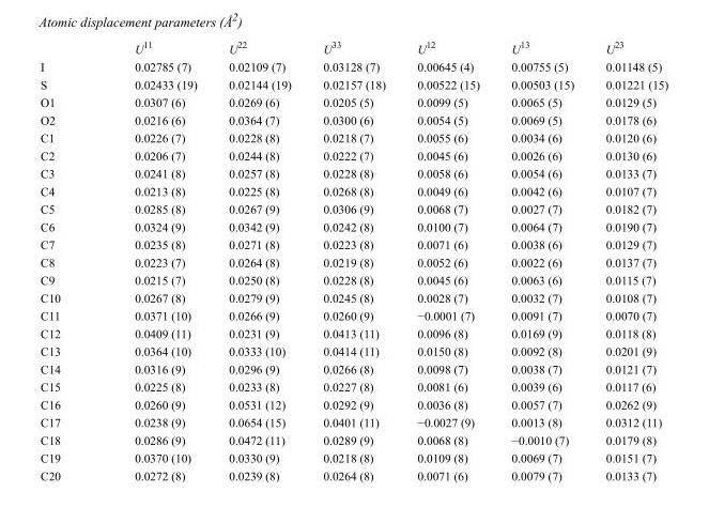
<table><thead><tr><td></td><td>U<sup>11</sup></td><td>U<sup>22</sup></td><td>U<sup>33</sup></td><td>U<sup>12</sup></td><td>U<sup>13</sup></td><td>U<sup>23</sup></td></tr></thead><tbody><tr><td>I</td><td>0.02785 (7)</td><td>0.02109 (7)</td><td>0.03128 (7)</td><td>0.00645 (4)</td><td>0.00755 (5)</td><td>0.01148 (5)</td></tr><tr><td>S</td><td>0.02433 (19)</td><td>0.02144 (19)</td><td>0.02157 (18)</td><td>0.00522 (15)</td><td>0.00503 (15)</td><td>0.01221 (15)</td></tr><tr><td>O1</td><td>0.0307 (6)</td><td>0.0269 (6)</td><td>0.0205 (5)</td><td>0.0099 (5)</td><td>0.0065 (5)</td><td>0.0129 (5)</td></tr><tr><td>O2</td><td>0.0216 (6)</td><td>0.0364 (7)</td><td>0.0300 (6)</td><td>0.0054 (5)</td><td>0.0069 (5)</td><td>0.0178 (6)</td></tr><tr><td>C1</td><td>0.0226 (7)</td><td>0.0228 (8)</td><td>0.0218 (7)</td><td>0.0055 (6)</td><td>0.0034 (6)</td><td>0.0120 (6)</td></tr><tr><td>C2</td><td>0.0206 (7)</td><td>0.0244 (8)</td><td>0.0222 (7)</td><td>0.0045 (6)</td><td>0.0026 (6)</td><td>0.0130 (6)</td></tr><tr><td>C3</td><td>0.0241 (8)</td><td>0.0257 (8)</td><td>0.0228 (8)</td><td>0.0058 (6)</td><td>0.0054 (6)</td><td>0.0133 (7)</td></tr><tr><td>C4</td><td>0.0213 (8)</td><td>0.0225 (8)</td><td>0.0268 (8)</td><td>0.0049 (6)</td><td>0.0042 (6)</td><td>0.0107 (7)</td></tr><tr><td>C5</td><td>0.0285 (8)</td><td>0.0267 (9)</td><td>0.0306 (9)</td><td>0.0068 (7)</td><td>0.0027 (7)</td><td>0.0182 (7)</td></tr><tr><td>C6</td><td>0.0324 (9)</td><td>0.0342 (9)</td><td>0.0242 (8)</td><td>0.0100 (7)</td><td>0.0064 (7)</td><td>0.0190 (7)</td></tr><tr><td>C7</td><td>0.0235 (8)</td><td>0.0271 (8)</td><td>0.0223 (8)</td><td>0.0071 (6)</td><td>0.0038 (6)</td><td>0.0129 (7)</td></tr><tr><td>C8</td><td>0.0223 (7)</td><td>0.0264 (8)</td><td>0.0219 (8)</td><td>0.0052 (6)</td><td>0.0022 (6)</td><td>0.0137 (7)</td></tr><tr><td>C9</td><td>0.0215 (7)</td><td>0.0250 (8)</td><td>0.0228 (8)</td><td>0.0045 (6)</td><td>0.0063 (6)</td><td>0.0115 (7)</td></tr><tr><td>C10</td><td>0.0267 (8)</td><td>0.0279 (9)</td><td>0.0245 (8)</td><td>0.0028 (7)</td><td>0.0032 (7)</td><td>0.0108 (7)</td></tr><tr><td>C11</td><td>0.0371 (10)</td><td>0.0266 (9)</td><td>0.0260 (9)</td><td>−0.0001 (7)</td><td>0.0091 (7)</td><td>0.0070 (7)</td></tr><tr><td>C12</td><td>0.0409 (11)</td><td>0.0231 (9)</td><td>0.0413 (11)</td><td>0.0096 (8)</td><td>0.0169 (9)</td><td>0.0118 (8)</td></tr><tr><td>C13</td><td>0.0364 (10)</td><td>0.0333 (10)</td><td>0.0414 (11)</td><td>0.0150 (8)</td><td>0.0092 (8)</td><td>0.0201 (9)</td></tr><tr><td>C14</td><td>0.0316 (9)</td><td>0.0296 (9)</td><td>0.0266 (8)</td><td>0.0098 (7)</td><td>0.0038 (7)</td><td>0.0121 (7)</td></tr><tr><td>C15</td><td>0.0225 (8)</td><td>0.0233 (8)</td><td>0.0227 (8)</td><td>0.0081 (6)</td><td>0.0039 (6)</td><td>0.0117 (6)</td></tr><tr><td>C16</td><td>0.0260 (9)</td><td>0.0531 (12)</td><td>0.0292 (9)</td><td>0.0036 (8)</td><td>0.0057 (7)</td><td>0.0262 (9)</td></tr><tr><td>C17</td><td>0.0238 (9)</td><td>0.0654 (15)</td><td>0.0401 (11)</td><td>−0.0027 (9)</td><td>0.0013 (8)</td><td>0.0312 (11)</td></tr><tr><td>C18</td><td>0.0286 (9)</td><td>0.0472 (11)</td><td>0.0289 (9)</td><td>0.0068 (8)</td><td>−0.0010 (7)</td><td>0.0179 (8)</td></tr><tr><td>C19</td><td>0.0370 (10)</td><td>0.0330 (9)</td><td>0.0218 (8)</td><td>0.0109 (8)</td><td>0.0069 (7)</td><td>0.0151 (7)</td></tr><tr><td>C20</td><td>0.0272 (8)</td><td>0.0239 (8)</td><td>0.0264 (8)</td><td>0.0071 (6)</td><td>0.0079 (7)</td><td>0.0133 (7)</td></tr></tbody></table>